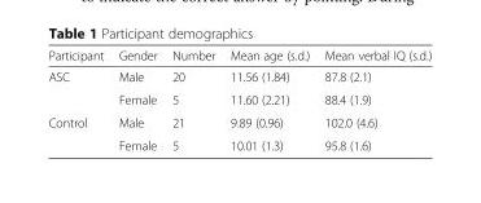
<table><thead><tr><td>Participant</td><td>Gender</td><td>Number</td><td>Mean age (s.d.)</td><td>Mean verbal IQ (s.d.)</td></tr></thead><tbody><tr><td rowspan="2">ASC</td><td>Male</td><td>20</td><td>11.56 (1.84)</td><td>87.8 (2.1)</td></tr><tr><td>Female</td><td>5</td><td>11.60 (2.21)</td><td>88.4 (1.9)</td></tr><tr><td rowspan="2">Control</td><td>Male</td><td>21</td><td>9.89 (0.96)</td><td>102.0 (4.6)</td></tr><tr><td>Female</td><td>5</td><td>10.01 (1.3)</td><td>95.8 (1.6)</td></tr></tbody></table>